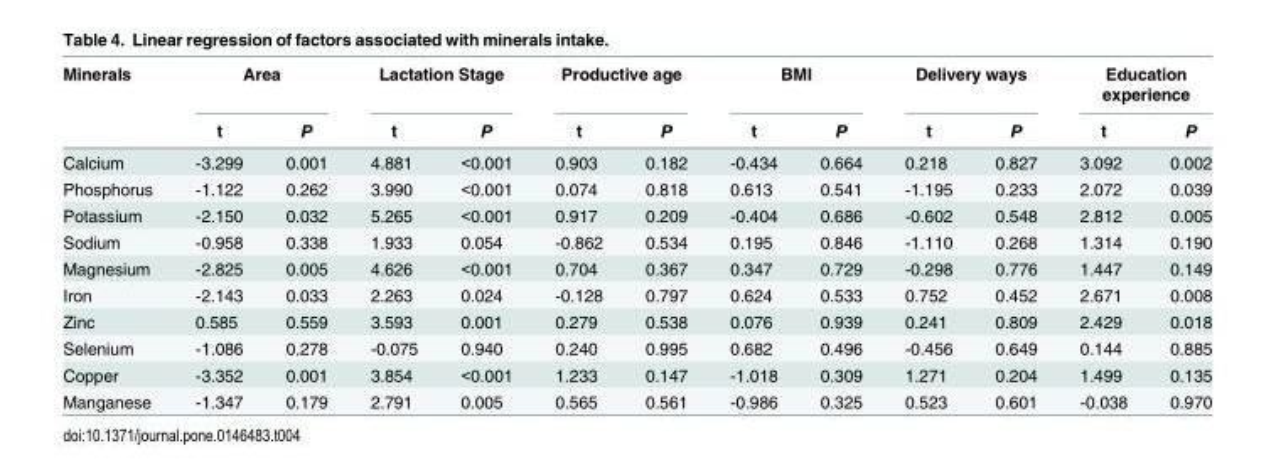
<table><thead><tr><td rowspan="2">Minerals</td><td colspan="2">Area</td><td colspan="2">Lactation Stage</td><td colspan="2">Productive age</td><td colspan="2">BMI</td><td colspan="2">Delivery ways</td><td colspan="2">Education experience</td></tr><tr><td>t</td><td>P</td><td>t</td><td>P</td><td>t</td><td>P</td><td>t</td><td>P</td><td>t</td><td>P</td><td>t</td><td>P</td></tr></thead><tbody><tr><td>Calcium</td><td>-3.299</td><td>0.001</td><td>4.881</td><td>&lt;0.001</td><td>0.903</td><td>0.182</td><td>-0.434</td><td>0.664</td><td>0.218</td><td>0.827</td><td>3.092</td><td>0.002</td></tr><tr><td>Phosphorus</td><td>-1.122</td><td>0.262</td><td>3.990</td><td>&lt;0.001</td><td>0.074</td><td>0.818</td><td>0.613</td><td>0.541</td><td>-1.195</td><td>0.233</td><td>2.072</td><td>0.039</td></tr><tr><td>Potassium</td><td>-2.150</td><td>0.032</td><td>5.265</td><td>&lt;0.001</td><td>0.917</td><td>0.209</td><td>-0.404</td><td>0.686</td><td>-0.602</td><td>0.548</td><td>2.812</td><td>0.005</td></tr><tr><td>Sodium</td><td>-0.958</td><td>0.338</td><td>1.933</td><td>0.054</td><td>-0.862</td><td>0.534</td><td>0.195</td><td>0.846</td><td>-1.110</td><td>0.268</td><td>1.314</td><td>0.190</td></tr><tr><td>Magnesium</td><td>-2.825</td><td>0.005</td><td>4.626</td><td>&lt;0.001</td><td>0.704</td><td>0.367</td><td>0.347</td><td>0.729</td><td>-0.298</td><td>0.776</td><td>1.447</td><td>0.149</td></tr><tr><td>Iron</td><td>-2.143</td><td>0.033</td><td>2.263</td><td>0.024</td><td>-0.128</td><td>0.797</td><td>0.624</td><td>0.533</td><td>0.752</td><td>0.452</td><td>2.671</td><td>0.008</td></tr><tr><td>Zinc</td><td>0.585</td><td>0.559</td><td>3.593</td><td>0.001</td><td>0.279</td><td>0.538</td><td>0.076</td><td>0.939</td><td>0.241</td><td>0.809</td><td>2.429</td><td>0.018</td></tr><tr><td>Selenium</td><td>-1.086</td><td>0.278</td><td>-0.075</td><td>0.940</td><td>0.240</td><td>0.995</td><td>0.682</td><td>0.496</td><td>-0.456</td><td>0.649</td><td>0.144</td><td>0.885</td></tr><tr><td>Copper</td><td>-3.352</td><td>0.001</td><td>3.854</td><td>&lt;0.001</td><td>1.233</td><td>0.147</td><td>-1.018</td><td>0.309</td><td>1.271</td><td>0.204</td><td>1.499</td><td>0.135</td></tr><tr><td>Manganese</td><td>-1.347</td><td>0.179</td><td>2.791</td><td>0.005</td><td>0.565</td><td>0.561</td><td>-0.986</td><td>0.325</td><td>0.523</td><td>0.601</td><td>-0.038</td><td>0.970</td></tr></tbody></table>